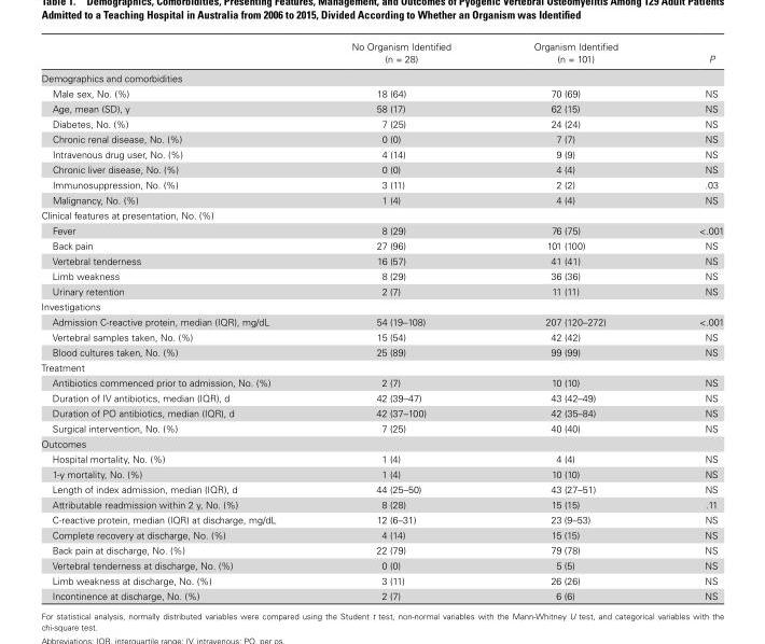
<table><thead><tr><td></td><td>No Organism Identified (n = 28)</td><td>Organism Identified (n = 101)</td><td>P</td></tr></thead><tbody><tr><td colspan="4">Demographics and comorbidities</td></tr><tr><td>Male sex, No. (%)</td><td>18 (64)</td><td>70 (69)</td><td>NS</td></tr><tr><td>Age, mean (SD), y</td><td>58 (17)</td><td>62 (15)</td><td>NS</td></tr><tr><td>Diabetes, No. (%)</td><td>7 (25)</td><td>24 (24)</td><td>NS</td></tr><tr><td>Chronic renal disease, No. (%)</td><td>0 (0)</td><td>7 (7)</td><td>NS</td></tr><tr><td>Intravenous drug user, No. (%)</td><td>4 (14)</td><td>9 (9)</td><td>NS</td></tr><tr><td>Chronic liver disease, No. (%)</td><td>0 (0)</td><td>4 (4)</td><td>NS</td></tr><tr><td>Immunosuppression, No. (%)</td><td>3 (11)</td><td>2 (2)</td><td>.03</td></tr><tr><td>Malignancy, No. (%)</td><td>1 (4)</td><td>4 (4)</td><td>NS</td></tr><tr><td colspan="4">Clinical features at presentation, No. (%)</td></tr><tr><td>Fever</td><td>8 (29)</td><td>76 (75)</td><td>&lt;.001</td></tr><tr><td>Back pain</td><td>27 (96)</td><td>101 (100)</td><td>NS</td></tr><tr><td>Vertebral tenderness</td><td>16 (57)</td><td>41 (41)</td><td>NS</td></tr><tr><td>Limb weakness</td><td>8 (29)</td><td>36 (36)</td><td>NS</td></tr><tr><td>Urinary retention</td><td>2 (7)</td><td>11 (11)</td><td>NS</td></tr><tr><td colspan="4">Investigations</td></tr><tr><td>Admission C-reactive protein, median (IQR), mg/dL</td><td>54 (19–108)</td><td>207 (120–272)</td><td>&lt;.001</td></tr><tr><td>Vertebral samples taken, No. (%)</td><td>15 (54)</td><td>42 (42)</td><td>NS</td></tr><tr><td>Blood cultures taken, No. (%)</td><td>25 (89)</td><td>99 (99)</td><td>NS</td></tr><tr><td colspan="4">Treatment</td></tr><tr><td>Antibiotics commenced prior to admission, No. (%)</td><td>2 (7)</td><td>10 (10)</td><td>NS</td></tr><tr><td>Duration of IV antibiotics, median (IQR), d</td><td>42 (39–47)</td><td>43 (42–49)</td><td>NS</td></tr><tr><td>Duration of PO antibiotics, median (IQR), d</td><td>42 (37–100)</td><td>42 (35–84)</td><td>NS</td></tr><tr><td>Surgical intervention, No. (%)</td><td>7 (25)</td><td>40 (40)</td><td>NS</td></tr><tr><td colspan="4">Outcomes</td></tr><tr><td>Hospital mortality, No. (%)</td><td>1 (4)</td><td>4 (4)</td><td>NS</td></tr><tr><td>1-y mortality, No. (%)</td><td>1 (4)</td><td>10 (10)</td><td>NS</td></tr><tr><td>Length of index admission, median (IQR), d</td><td>44 (25–50)</td><td>43 (27–51)</td><td>NS</td></tr><tr><td>Attributable readmission within 2 y, No. (%)</td><td>8 (28)</td><td>15 (15)</td><td>.11</td></tr><tr><td>C-reactive protein, median (IQR) at discharge, mg/dL</td><td>12 (6–31)</td><td>23 (9–53)</td><td>NS</td></tr><tr><td>Complete recovery at discharge, No. (%)</td><td>4 (14)</td><td>15 (15)</td><td>NS</td></tr><tr><td>Back pain at discharge, No. (%)</td><td>22 (79)</td><td>79 (78)</td><td>NS</td></tr><tr><td>Vertebral tenderness at discharge, No. (%)</td><td>0 (0)</td><td>5 (5)</td><td>NS</td></tr><tr><td>Limb weakness at discharge, No. (%)</td><td>3 (11)</td><td>26 (26)</td><td>NS</td></tr><tr><td>Incontinence at discharge, No. (%)</td><td>2 (7)</td><td>6 (6)</td><td>NS</td></tr></tbody></table>